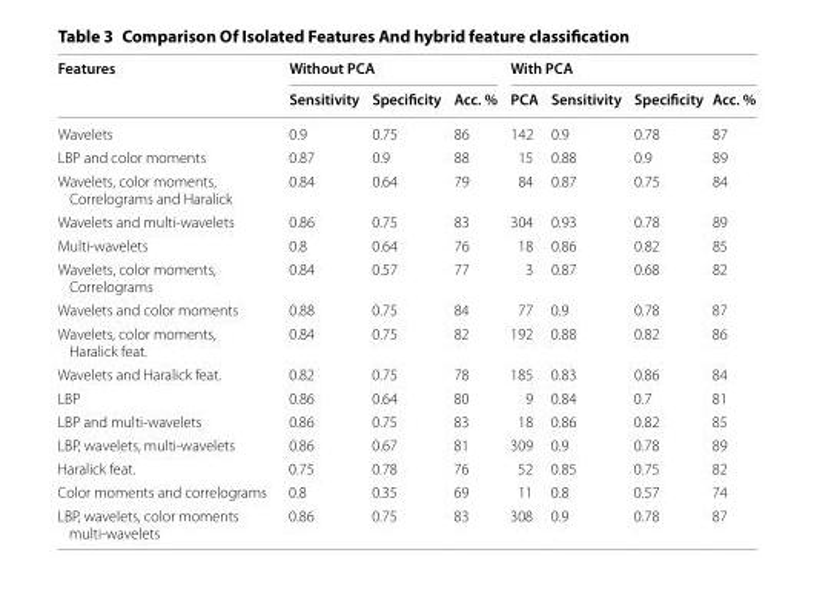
<table><thead><tr><td rowspan="2">Features</td><td colspan="3">Without PCA</td><td colspan="4">With PCA</td></tr><tr><td>Sensitivity</td><td>Specificity</td><td>Acc. %</td><td>PCA</td><td>Sensitivity</td><td>Specificity</td><td>Acc. %</td></tr></thead><tbody><tr><td>Wavelets</td><td>0.9</td><td>0.75</td><td>86</td><td>142</td><td>0.9</td><td>0.78</td><td>87</td></tr><tr><td>LBP and color moments</td><td>0.87</td><td>0.9</td><td>88</td><td>15</td><td>0.88</td><td>0.9</td><td>89</td></tr><tr><td>Wavelets, color moments, Correlograms and Haralick</td><td>0.84</td><td>0.64</td><td>79</td><td>84</td><td>0.87</td><td>0.75</td><td>84</td></tr><tr><td>Wavelets and multi-wavelets</td><td>0.86</td><td>0.75</td><td>83</td><td>304</td><td>0.93</td><td>0.78</td><td>89</td></tr><tr><td>Multi-wavelets</td><td>0.8</td><td>0.64</td><td>76</td><td>18</td><td>0.86</td><td>0.82</td><td>85</td></tr><tr><td>Wavelets, color moments, Correlograms</td><td>0.84</td><td>0.57</td><td>77</td><td>3</td><td>0.87</td><td>0.68</td><td>82</td></tr><tr><td>Wavelets and color moments</td><td>0.88</td><td>0.75</td><td>84</td><td>77</td><td>0.9</td><td>0.78</td><td>87</td></tr><tr><td>Wavelets, color moments, Haralick feat.</td><td>0.84</td><td>0.75</td><td>82</td><td>192</td><td>0.88</td><td>0.82</td><td>86</td></tr><tr><td>Wavelets and Haralick feat.</td><td>0.82</td><td>0.75</td><td>78</td><td>185</td><td>0.83</td><td>0.86</td><td>84</td></tr><tr><td>LBP</td><td>0.86</td><td>0.64</td><td>80</td><td>9</td><td>0.84</td><td>0.7</td><td>81</td></tr><tr><td>LBP and multi-wavelets</td><td>0.86</td><td>0.75</td><td>83</td><td>18</td><td>0.86</td><td>0.82</td><td>85</td></tr><tr><td>LBP, wavelets, multi-wavelets</td><td>0.86</td><td>0.67</td><td>81</td><td>309</td><td>0.9</td><td>0.78</td><td>89</td></tr><tr><td>Haralick feat.</td><td>0.75</td><td>0.78</td><td>76</td><td>52</td><td>0.85</td><td>0.75</td><td>82</td></tr><tr><td>Color moments and correlograms</td><td>0.8</td><td>0.35</td><td>69</td><td>11</td><td>0.8</td><td>0.57</td><td>74</td></tr><tr><td>LBP, wavelets, color moments multi-wavelets</td><td>0.86</td><td>0.75</td><td>83</td><td>308</td><td>0.9</td><td>0.78</td><td>87</td></tr></tbody></table>